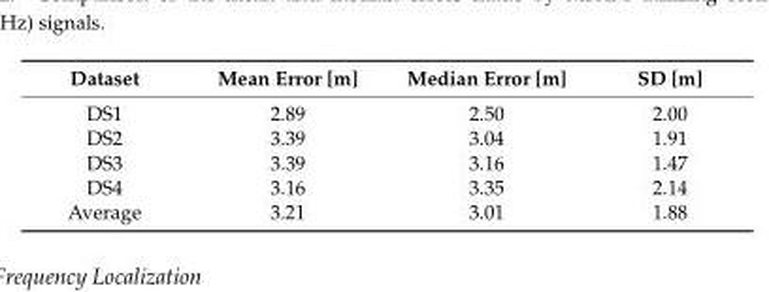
<table><thead><tr><td>Dataset</td><td>Mean Error [m]</td><td>Median Error [m]</td><td>SD [m]</td></tr></thead><tbody><tr><td>DS1</td><td>2.89</td><td>2.50</td><td>2.00</td></tr><tr><td>DS2</td><td>3.39</td><td>3.04</td><td>1.91</td></tr><tr><td>DS3</td><td>3.39</td><td>3.16</td><td>1.47</td></tr><tr><td>DS4</td><td>3.16</td><td>3.35</td><td>2.14</td></tr><tr><td>Average</td><td>3.21</td><td>3.01</td><td>1.88</td></tr></tbody></table>